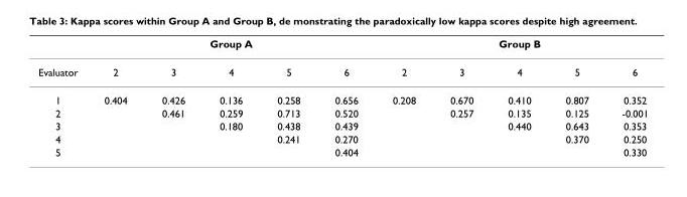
<table><thead><tr><td rowspan="2">Evaluator</td><td colspan="5">Group A</td><td colspan="5">Group B</td></tr><tr><td>2</td><td>3</td><td>4</td><td>5</td><td>6</td><td>2</td><td>3</td><td>4</td><td>5</td><td>6</td></tr></thead><tbody><tr><td>1</td><td>0.404</td><td>0.426</td><td>0.136</td><td>0.258</td><td>0.656</td><td>0.208</td><td>0.670</td><td>0.410</td><td>0.807</td><td>0.352</td></tr><tr><td>2</td><td></td><td>0.461</td><td>0.259</td><td>0.713</td><td>0.520</td><td></td><td>0.257</td><td>0.135</td><td>0.125</td><td>-0.001</td></tr><tr><td>3</td><td></td><td></td><td>0.180</td><td>0.438</td><td>0.439</td><td></td><td></td><td>0.440</td><td>0.643</td><td>0.353</td></tr><tr><td>4</td><td></td><td></td><td></td><td>0.241</td><td>0.270</td><td></td><td></td><td></td><td>0.370</td><td>0.250</td></tr><tr><td>5</td><td></td><td></td><td></td><td></td><td>0.404</td><td></td><td></td><td></td><td></td><td>0.330</td></tr></tbody></table>